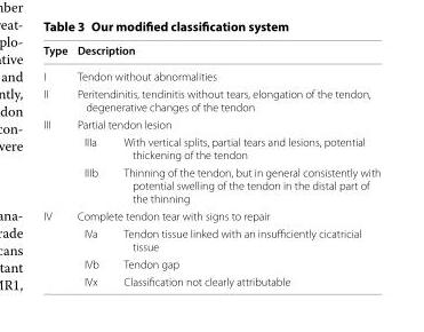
<table><thead><tr><td>Type</td><td colspan="2">Description</td></tr></thead><tbody><tr><td>I</td><td colspan="2">Tendon without abnormalities</td></tr><tr><td>II</td><td colspan="2">Peritendinitis, tendinitis without tears, elongation of the tendon, degenerative changes of the tendon</td></tr><tr><td rowspan="3">III</td><td colspan="2">Partial tendon lesion</td></tr><tr><td>IIIa</td><td>With vertical splits, partial tears and lesions, potential thickening of the tendon</td></tr><tr><td>IIIb</td><td>Thinning of the tendon, but in general consistently with potential swelling of the tendon in the distal part of the thinning</td></tr><tr><td rowspan="4">IV</td><td colspan="2">Complete tendon tear with signs to repair</td></tr><tr><td>IVa</td><td>Tendon tissue linked with an insufficiently cicatricial tissue</td></tr><tr><td>IVb</td><td>Tendon gap</td></tr><tr><td>IVx</td><td>Classification not clearly attributable</td></tr></tbody></table>